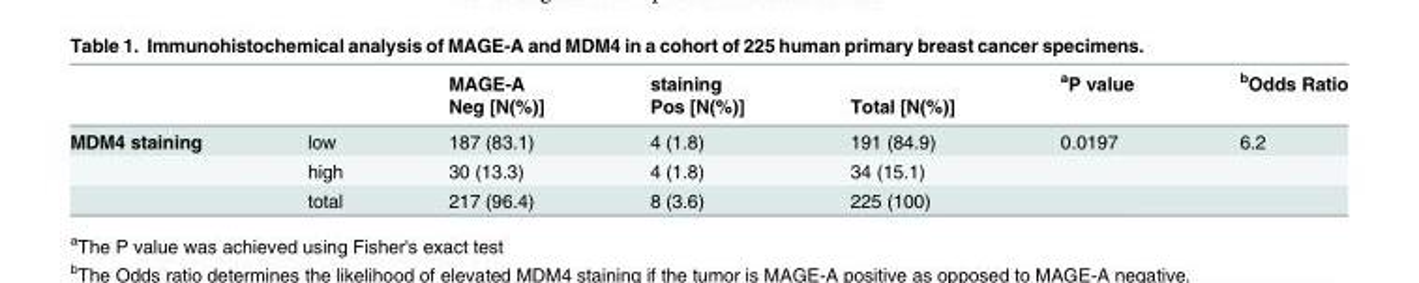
<table><thead><tr><td rowspan="2"></td><td rowspan="2"></td><td rowspan="2">MAGE-A Neg [N(%)]</td><td rowspan="2">staining Pos [N(%)]</td><td rowspan="2">Total [N(%)]</td><td rowspan="2"><sup>a</sup>P value</td><td rowspan="2"><sup>b</sup>Odds Ratio</td></tr><tr></tr></thead><tbody><tr><td rowspan="3">MDM4 staining</td><td>low</td><td>187 (83.1)</td><td>4 (1.8)</td><td>191 (84.9)</td><td>0.0197</td><td>6.2</td></tr><tr><td>high</td><td>30 (13.3)</td><td>4 (1.8)</td><td>34 (15.1)</td><td></td><td></td></tr><tr><td>total</td><td>217 (96.4)</td><td>8 (3.6)</td><td>225 (100)</td><td></td><td></td></tr></tbody></table>